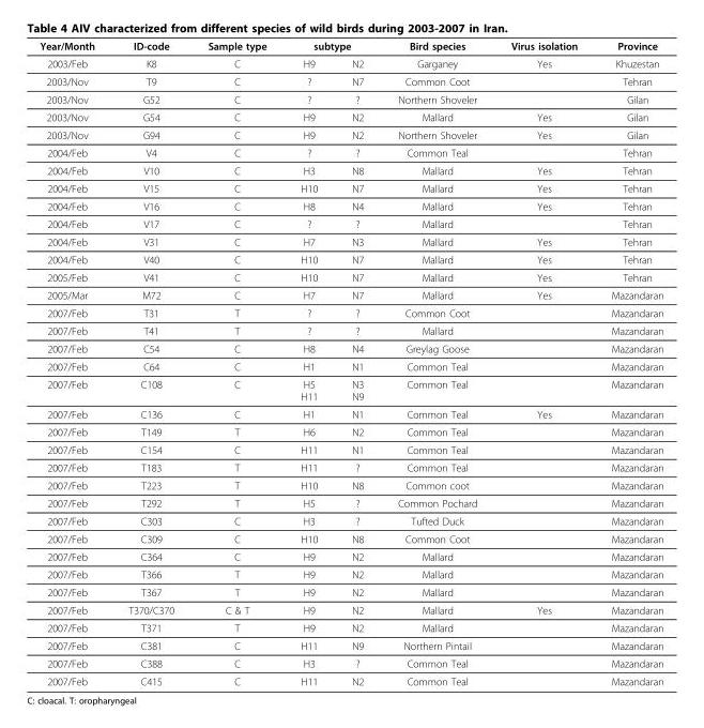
<table><thead><tr><td rowspan="2">Year/Month 2003/Feb</td><td rowspan="2">ID-code K8</td><td rowspan="2">Sample type C</td><td colspan="2">subtype</td><td rowspan="2">Bird species Garganey</td><td rowspan="2">Virus isolation Yes</td><td rowspan="2">Province Khuzestan</td></tr><tr><td>H9</td><td>N2</td></tr></thead><tbody><tr><td>2003/Nov</td><td>T9</td><td>C</td><td>?</td><td>N7</td><td>Common Coot</td><td></td><td>Tehran</td></tr><tr><td>2003/Nov</td><td>G52</td><td>C</td><td>?</td><td>?</td><td>Northern Shoveler</td><td></td><td>Gilan</td></tr><tr><td>2003/Nov</td><td>G54</td><td>C</td><td>H9</td><td>N2</td><td>Mallard</td><td>Yes</td><td>Gilan</td></tr><tr><td>2003/Nov</td><td>G94</td><td>C</td><td>H9</td><td>N2</td><td>Northern Shoveler</td><td>Yes</td><td>Gilan</td></tr><tr><td>2004/Feb</td><td>V4</td><td>C</td><td>?</td><td>?</td><td>Common Teal</td><td></td><td>Tehran</td></tr><tr><td>2004/Feb</td><td>V10</td><td>C</td><td>H3</td><td>N8</td><td>Mallard</td><td>Yes</td><td>Tehran</td></tr><tr><td>2004/Feb</td><td>V15</td><td>C</td><td>H10</td><td>N7</td><td>Mallard</td><td>Yes</td><td>Tehran</td></tr><tr><td>2004/Feb</td><td>V16</td><td>C</td><td>H8</td><td>N4</td><td>Mallard</td><td>Yes</td><td>Tehran</td></tr><tr><td>2004/Feb</td><td>V17</td><td>C</td><td>?</td><td>?</td><td>Mallard</td><td></td><td>Tehran</td></tr><tr><td>2004/Feb</td><td>V31</td><td>C</td><td>H7</td><td>N3</td><td>Mallard</td><td>Yes</td><td>Tehran</td></tr><tr><td>2004/Feb</td><td>V40</td><td>C</td><td>H10</td><td>N7</td><td>Mallard</td><td>Yes</td><td>Tehran</td></tr><tr><td>2005/Feb</td><td>V41</td><td>C</td><td>H10</td><td>N7</td><td>Mallard</td><td>Yes</td><td>Tehran</td></tr><tr><td>2005/Mar</td><td>M72</td><td>C</td><td>H7</td><td>N7</td><td>Mallard</td><td>Yes</td><td>Mazandaran</td></tr><tr><td>2007/Feb</td><td>T31</td><td>T</td><td>?</td><td>?</td><td>Common Coot</td><td></td><td>Mazandaran</td></tr><tr><td>2007/Feb</td><td>T41</td><td>T</td><td>?</td><td>?</td><td>Mallard</td><td></td><td>Mazandaran</td></tr><tr><td>2007/Feb</td><td>C54</td><td>C</td><td>H8</td><td>N4</td><td>Greylag Goose</td><td></td><td>Mazandaran</td></tr><tr><td>2007/Feb</td><td>C64</td><td>C</td><td>H1</td><td>N1</td><td>Common Teal</td><td></td><td>Mazandaran</td></tr><tr><td>2007/Feb</td><td>C108</td><td>C</td><td>H5 H11</td><td>N3 N9</td><td>Common Teal</td><td></td><td>Mazandaran</td></tr><tr><td>2007/Feb</td><td>C136</td><td>C</td><td>H1</td><td>N1</td><td>Common Teal</td><td>Yes</td><td>Mazandaran</td></tr><tr><td>2007/Feb</td><td>T149</td><td>T</td><td>H6</td><td>N2</td><td>Common Teal</td><td></td><td>Mazandaran</td></tr><tr><td>2007/Feb</td><td>C154</td><td>C</td><td>H11</td><td>N1</td><td>Common Teal</td><td></td><td>Mazandaran</td></tr><tr><td>2007/Feb</td><td>T183</td><td>T</td><td>H11</td><td>?</td><td>Common Teal</td><td></td><td>Mazandaran</td></tr><tr><td>2007/Feb</td><td>T223</td><td>T</td><td>H10</td><td>N8</td><td>Common coot</td><td></td><td>Mazandaran</td></tr><tr><td>2007/Feb</td><td>T292</td><td>T</td><td>H5</td><td>?</td><td>Common Pochard</td><td></td><td>Mazandaran</td></tr><tr><td>2007/Feb</td><td>C303</td><td>C</td><td>H3</td><td>?</td><td>Tufted Duck</td><td></td><td>Mazandaran</td></tr><tr><td>2007/Feb</td><td>C309</td><td>C</td><td>H10</td><td>N8</td><td>Common Coot</td><td></td><td>Mazandaran</td></tr><tr><td>2007/Feb</td><td>C364</td><td>C</td><td>H9</td><td>N2</td><td>Mallard</td><td></td><td>Mazandaran</td></tr><tr><td>2007/Feb</td><td>T366</td><td>T</td><td>H9</td><td>N2</td><td>Mallard</td><td></td><td>Mazandaran</td></tr><tr><td>2007/Feb</td><td>T367</td><td>T</td><td>H9</td><td>N2</td><td>Mallard</td><td></td><td>Mazandaran</td></tr><tr><td>2007/Feb</td><td>T370/C370</td><td>C &amp; T</td><td>H9</td><td>N2</td><td>Mallard</td><td>Yes</td><td>Mazandaran</td></tr><tr><td>2007/Feb</td><td>T371</td><td>T</td><td>H9</td><td>N2</td><td>Mallard</td><td></td><td>Mazandaran</td></tr><tr><td>2007/Feb</td><td>C381</td><td>C</td><td>H11</td><td>N9</td><td>Northern Pintail</td><td></td><td>Mazandaran</td></tr><tr><td>2007/Feb</td><td>C388</td><td>C</td><td>H3</td><td>?</td><td>Common Teal</td><td></td><td>Mazandaran</td></tr><tr><td>2007/Feb</td><td>C415</td><td>C</td><td>H11</td><td>N2</td><td>Common Teal</td><td></td><td>Mazandaran</td></tr></tbody></table>